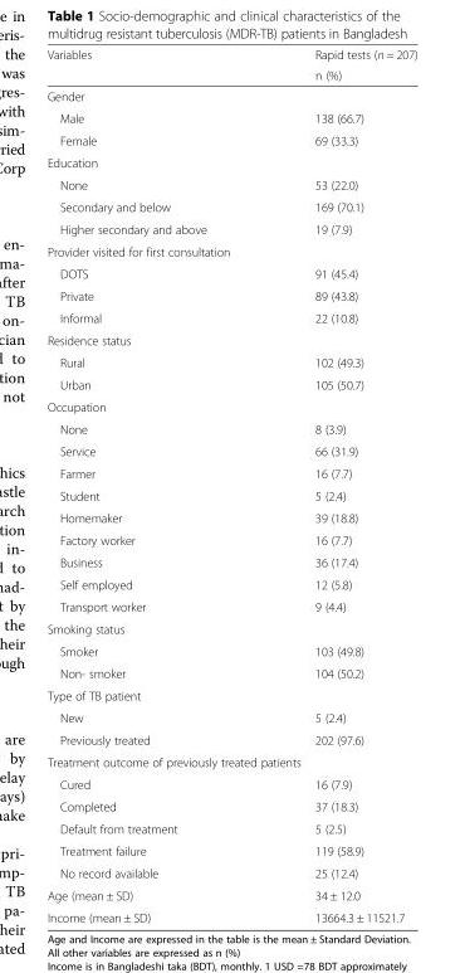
<table><thead><tr><td rowspan="2">Variables</td><td rowspan="2">Rapid tests (n = 207) n (%)</td></tr><tr></tr></thead><tbody><tr><td colspan="2">Gender</td></tr><tr><td>Male</td><td>138 (66.7)</td></tr><tr><td>Female</td><td>69 (33.3)</td></tr><tr><td colspan="2">Education</td></tr><tr><td>None</td><td>53 (22.0)</td></tr><tr><td>Secondary and below</td><td>169 (70.1)</td></tr><tr><td>Higher secondary and above</td><td>19 (7.9)</td></tr><tr><td colspan="2">Provider visited for first consultation</td></tr><tr><td>DOTS</td><td>91 (45.4)</td></tr><tr><td>Private</td><td>89 (43.8)</td></tr><tr><td>Informal</td><td>22 (10.8)</td></tr><tr><td colspan="2">Residence status</td></tr><tr><td>Rural</td><td>102 (49.3)</td></tr><tr><td>Urban</td><td>105 (50.7)</td></tr><tr><td colspan="2">Occupation</td></tr><tr><td>None</td><td>8 (3.9)</td></tr><tr><td>Service</td><td>66 (31.9)</td></tr><tr><td>Farmer</td><td>16 (7.7)</td></tr><tr><td>Student</td><td>5 (2.4)</td></tr><tr><td>Homemaker</td><td>39 (18.8)</td></tr><tr><td>Factory worker</td><td>16 (7.7)</td></tr><tr><td>Business</td><td>36 (17.4)</td></tr><tr><td>Self employed</td><td>12 (5.8)</td></tr><tr><td>Transport worker</td><td>9 (4.4)</td></tr><tr><td colspan="2">Smoking status</td></tr><tr><td>Smoker</td><td>103 (49.8)</td></tr><tr><td>Non- smoker</td><td>104 (50.2)</td></tr><tr><td colspan="2">Type of TB patient</td></tr><tr><td>New</td><td>5 (2.4)</td></tr><tr><td>Previously treated</td><td>202 (97.6)</td></tr><tr><td colspan="2">Treatment outcome of previously treated patients</td></tr><tr><td>Cured</td><td>16 (7.9)</td></tr><tr><td>Completed</td><td>37 (18.3)</td></tr><tr><td>Default from treatment</td><td>5 (2.5)</td></tr><tr><td>Treatment failure</td><td>119 (58.9)</td></tr><tr><td>No record available</td><td>25 (12.4)</td></tr><tr><td>Age (mean ± SD)</td><td>34 ± 12.0</td></tr><tr><td>Income (mean ± SD)</td><td>13664.3 ± 11521.7</td></tr></tbody></table>